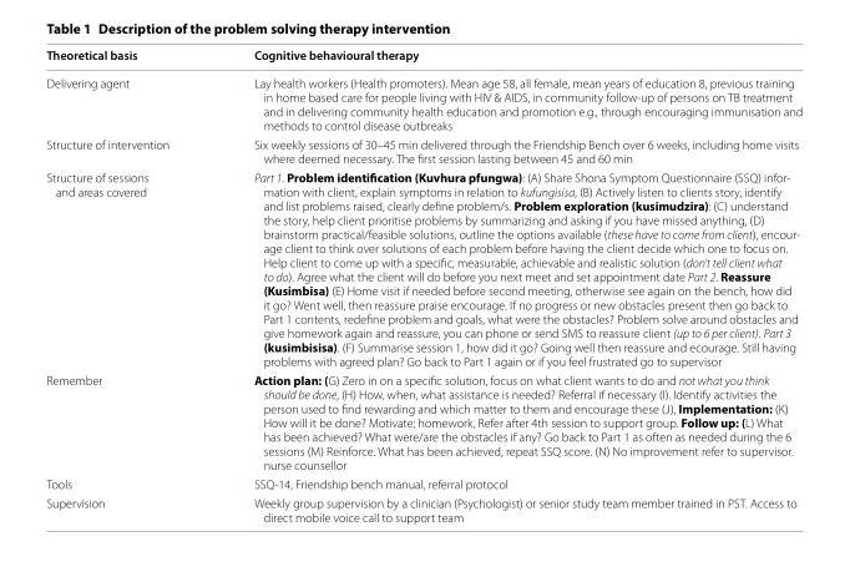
<table><thead><tr><td>Theoretical basis</td><td>Cognitive behavioural therapy</td></tr></thead><tbody><tr><td>Delivering agent</td><td>Lay health workers (Health promoters). Mean age 58, all female, mean years of education 8, previous training in home based care for people living with HIV &amp; AIDS, in community follow-up of persons on TB treatment and in delivering community health education and promotion e.g., through encouraging immunisation and methods to control disease outbreaks</td></tr><tr><td>Structure of intervention</td><td>Six weekly sessions of 30–45 min delivered through the Friendship Bench over 6 weeks, including home visits where deemed necessary. The first session lasting between 45 and 60 min</td></tr><tr><td>Structure of sessions and areas covered</td><td>Part 1. Problem identification (Kuvhura pfungwa): (A) Share Shona Symptom Questionnaire (SSQ) infor- mation with client, explain symptoms in relation to kufungisisa, (B) Actively listen to clients story, identify and list problems raised, clearly define problem/s. Problem exploration (kusimudzira): (C) understand the story, help client prioritise problems by summarizing and asking if you have missed anything, (D) brainstorm practical/feasible solutions, outline the options available (these have to come from client), encour- age client to think over solutions of each problem before having the client decide which one to focus on. Help client to come up with a specific, measurable, achievable and realistic solution (don’t tell client what to do). Agree what the client will do before you next meet and set appointment date Part 2. Reassure (Kusimbisa) (E) Home visit if needed before second meeting, otherwise see again on the bench, how did it go? Went well, then reassure praise encourage. If no progress or new obstacles present then go back to Part 1 contents, redefine problem and goals, what were the obstacles? Problem solve around obstacles and give homework again and reassure, you can phone or send SMS to reassure client (up to 6 per client). Part 3 (kusimbisisa). (F) Summarise session 1, how did it go? Going well then reassure and ecourage. Still having problems with agreed plan? Go back to Part 1 again or if you feel frustrated go to supervisor</td></tr><tr><td>Remember</td><td>Action plan: (G) Zero in on a specific solution, focus on what client wants to do and not what you think should be done, (H) How, when, what assistance is needed? Referral if necessary (I). Identify activities the person used to find rewarding and which matter to them and encourage these (J), Implementation: (K) How will it be done? Motivate; homework, Refer after 4th session to support group. Follow up: (L) What has been achieved? What were/are the obstacles if any? Go back to Part 1 as often as needed during the 6 sessions (M) Reinforce. What has been achieved, repeat SSQ score. (N) No improvement refer to supervisor. nurse counsellor</td></tr><tr><td>Tools</td><td>SSQ-14, Friendship bench manual, referral protocol</td></tr><tr><td>Supervision</td><td>Weekly group supervision by a clinician (Psychologist) or senior study team member trained in PST. Access to direct mobile voice call to support team</td></tr></tbody></table>